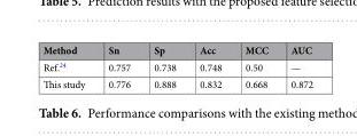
<table><thead><tr><td>Method</td><td>Sn</td><td>Sp</td><td>Acc</td><td>MCC</td><td>AUC</td></tr></thead><tbody><tr><td>Ref.<sup>24</sup></td><td>0.757</td><td>0.738</td><td>0.748</td><td>0.50</td><td>—</td></tr><tr><td>This study</td><td>0.776</td><td>0.888</td><td>0.832</td><td>0.668</td><td>0.872</td></tr></tbody></table>